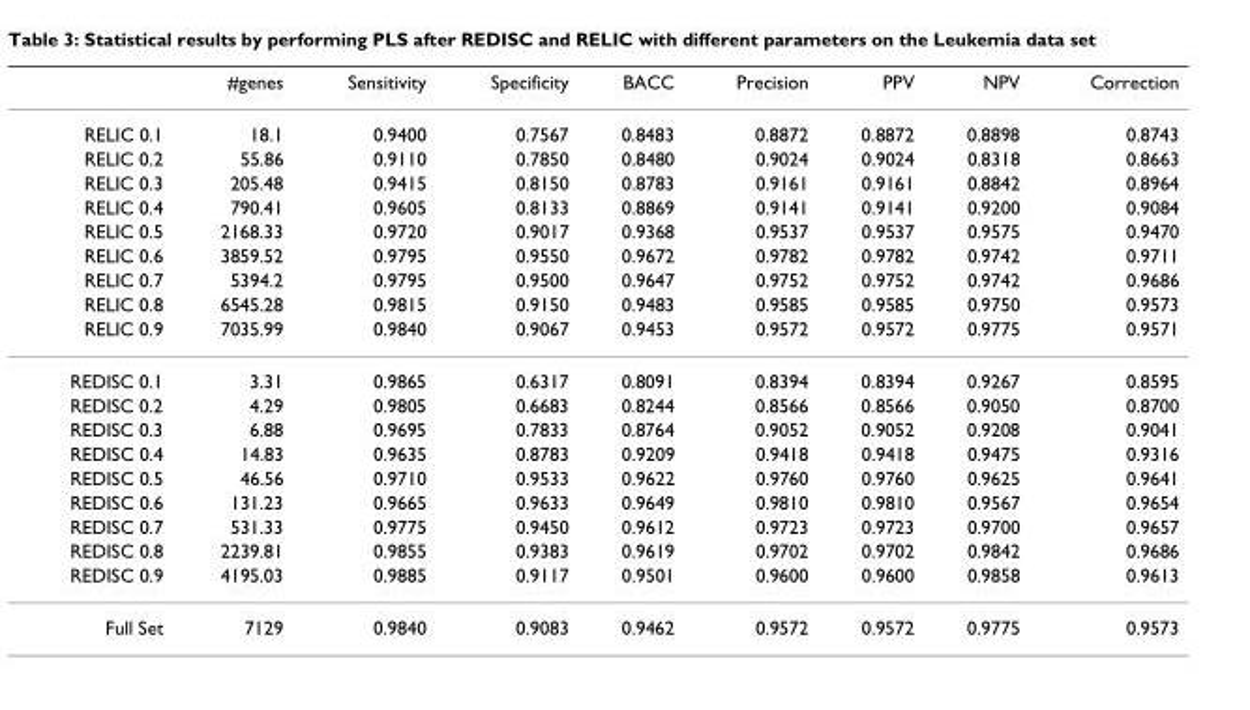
<table><thead><tr><td></td><td>#genes</td><td>Sensitivity</td><td>Specificity</td><td>BACC</td><td>Precision</td><td>PPV</td><td>NPV</td><td>Correction</td></tr></thead><tbody><tr><td>RELIC 0.1</td><td>18.1</td><td>0.9400</td><td>0.7567</td><td>0.8483</td><td>0.8872</td><td>0.8872</td><td>0.8898</td><td>0.8743</td></tr><tr><td>RELIC 0.2</td><td>55.86</td><td>0.9110</td><td>0.7850</td><td>0.8480</td><td>0.9024</td><td>0.9024</td><td>0.8318</td><td>0.8663</td></tr><tr><td>RELIC 0.3</td><td>205.48</td><td>0.9415</td><td>0.8150</td><td>0.8783</td><td>0.9161</td><td>0.9161</td><td>0.8842</td><td>0.8964</td></tr><tr><td>RELIC 0.4</td><td>790.41</td><td>0.9605</td><td>0.8133</td><td>0.8869</td><td>0.9141</td><td>0.9141</td><td>0.9200</td><td>0.9084</td></tr><tr><td>RELIC 0.5</td><td>2168.33</td><td>0.9720</td><td>0.9017</td><td>0.9368</td><td>0.9537</td><td>0.9537</td><td>0.9575</td><td>0.9470</td></tr><tr><td>RELIC 0.6</td><td>3859.52</td><td>0.9795</td><td>0.9550</td><td>0.9672</td><td>0.9782</td><td>0.9782</td><td>0.9742</td><td>0.9711</td></tr><tr><td>RELIC 0.7</td><td>5394.2</td><td>0.9795</td><td>0.9500</td><td>0.9647</td><td>0.9752</td><td>0.9752</td><td>0.9742</td><td>0.9686</td></tr><tr><td>RELIC 0.8</td><td>6545.28</td><td>0.9815</td><td>0.9150</td><td>0.9483</td><td>0.9585</td><td>0.9585</td><td>0.9750</td><td>0.9573</td></tr><tr><td>RELIC 0.9</td><td>7035.99</td><td>0.9840</td><td>0.9067</td><td>0.9453</td><td>0.9572</td><td>0.9572</td><td>0.9775</td><td>0.9571</td></tr><tr><td>REDISC 0.1</td><td>3.31</td><td>0.9865</td><td>0.6317</td><td>0.8091</td><td>0.8394</td><td>0.8394</td><td>0.9267</td><td>0.8595</td></tr><tr><td>REDISC 0.2</td><td>4.29</td><td>0.9805</td><td>0.6683</td><td>0.8244</td><td>0.8566</td><td>0.8566</td><td>0.9050</td><td>0.8700</td></tr><tr><td>REDISC 0.3</td><td>6.88</td><td>0.9695</td><td>0.7833</td><td>0.8764</td><td>0.9052</td><td>0.9052</td><td>0.9208</td><td>0.9041</td></tr><tr><td>REDISC 0.4</td><td>14.83</td><td>0.9635</td><td>0.8783</td><td>0.9209</td><td>0.9418</td><td>0.9418</td><td>0.9475</td><td>0.9316</td></tr><tr><td>REDISC 0.5</td><td>46.56</td><td>0.9710</td><td>0.9533</td><td>0.9622</td><td>0.9760</td><td>0.9760</td><td>0.9625</td><td>0.9641</td></tr><tr><td>REDISC 0.6</td><td>131.23</td><td>0.9665</td><td>0.9633</td><td>0.9649</td><td>0.9810</td><td>0.9810</td><td>0.9567</td><td>0.9654</td></tr><tr><td>REDISC 0.7</td><td>531.33</td><td>0.9775</td><td>0.9450</td><td>0.9612</td><td>0.9723</td><td>0.9723</td><td>0.9700</td><td>0.9657</td></tr><tr><td>REDISC 0.8</td><td>2239.81</td><td>0.9855</td><td>0.9383</td><td>0.9619</td><td>0.9702</td><td>0.9702</td><td>0.9842</td><td>0.9686</td></tr><tr><td>REDISC 0.9</td><td>4195.03</td><td>0.9885</td><td>0.9117</td><td>0.9501</td><td>0.9600</td><td>0.9600</td><td>0.9858</td><td>0.9613</td></tr><tr><td>Full Set</td><td>7129</td><td>0.9840</td><td>0.9083</td><td>0.9462</td><td>0.9572</td><td>0.9572</td><td>0.9775</td><td>0.9573</td></tr></tbody></table>